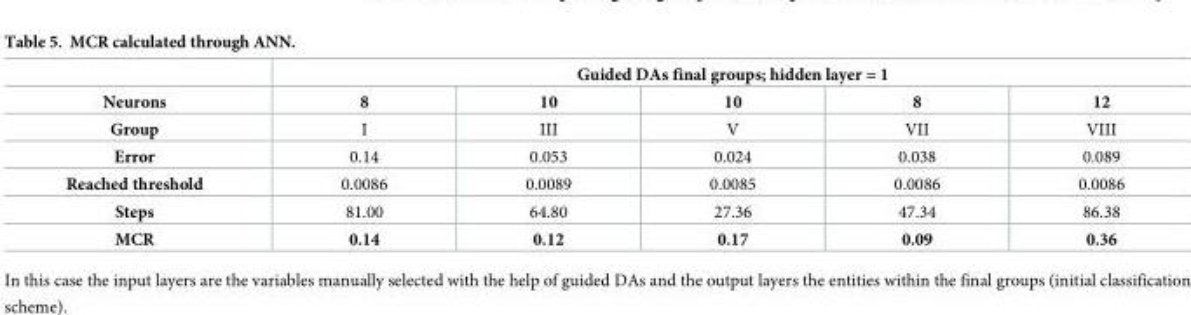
<table><thead><tr><td rowspan="2">Neurons</td><td colspan="5">Guided DAs final groups; hidden layer = 1</td></tr><tr><td>8</td><td>10</td><td>10</td><td>8</td><td>12</td></tr></thead><tbody><tr><td>Group</td><td>I</td><td>III</td><td>V</td><td>VII</td><td>VIII</td></tr><tr><td>Error</td><td>0.14</td><td>0.053</td><td>0.024</td><td>0.038</td><td>0.089</td></tr><tr><td>Reached threshold</td><td>0.0086</td><td>0.0089</td><td>0.0085</td><td>0.0086</td><td>0.0086</td></tr><tr><td>Steps</td><td>81.00</td><td>64.80</td><td>27.36</td><td>47.34</td><td>86.38</td></tr><tr><td>MCR</td><td>0.14</td><td>0.12</td><td>0.17</td><td>0.09</td><td>0.36</td></tr></tbody></table>